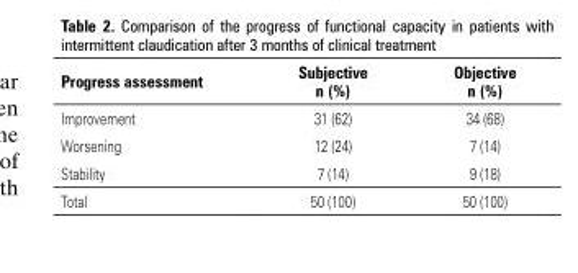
<table><thead><tr><td>Progress assessment</td><td>Subjective n (%)</td><td>Objective n (%)</td></tr></thead><tbody><tr><td>Improvement</td><td>31 (62)</td><td>34 (68)</td></tr><tr><td>Worsening</td><td>12 (24)</td><td>7 (14)</td></tr><tr><td>Stability</td><td>7 (14)</td><td>9 (18)</td></tr><tr><td>Total</td><td>50 (100)</td><td>50 (100)</td></tr></tbody></table>